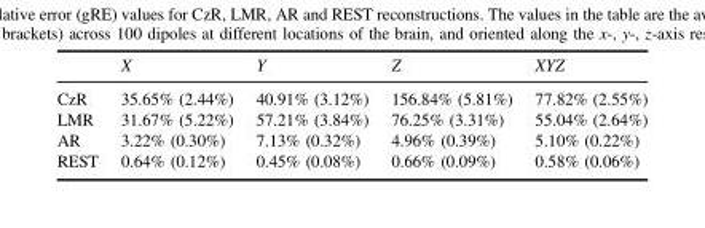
<table><thead><tr><td></td><td>X</td><td>Y</td><td>Z</td><td>XYZ</td></tr></thead><tbody><tr><td>CzR</td><td>35.65% (2.44%)</td><td>40.91% (3.12%)</td><td>156.84% (5.81%)</td><td>77.82% (2.55%)</td></tr><tr><td>LMR</td><td>31.67% (5.22%)</td><td>57.21% (3.84%)</td><td>76.25% (3.31%)</td><td>55.04% (2.64%)</td></tr><tr><td>AR</td><td>3.22% (0.30%)</td><td>7.13% (0.32%)</td><td>4.96% (0.39%)</td><td>5.10% (0.22%)</td></tr><tr><td>REST</td><td>0.64% (0.12%)</td><td>0.45% (0.08%)</td><td>0.66% (0.09%)</td><td>0.58% (0.06%)</td></tr></tbody></table>